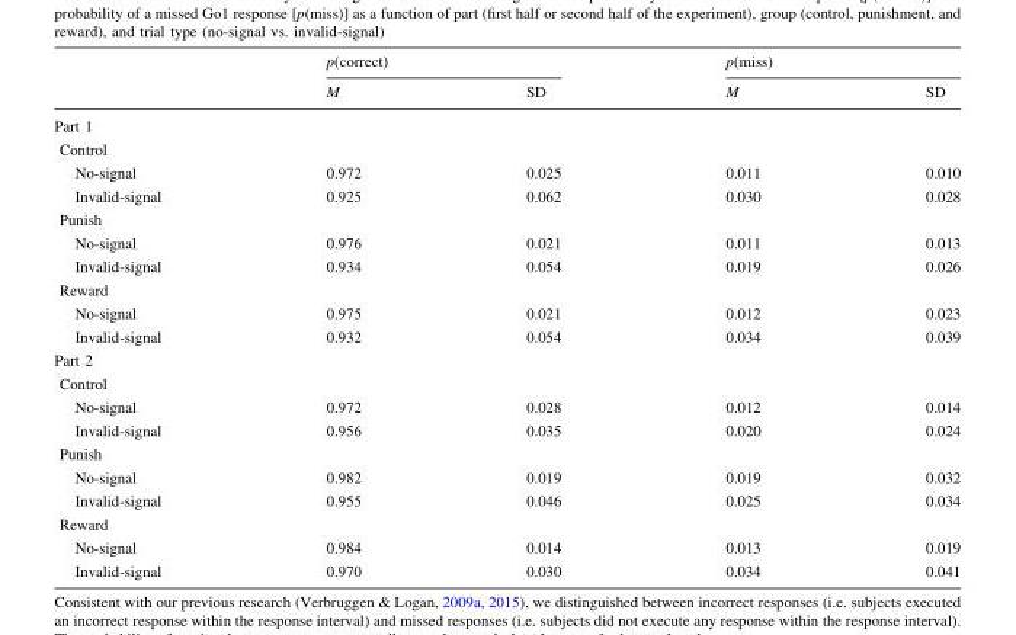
<table><thead><tr><td rowspan="2"></td><td colspan="2">p(correct)</td><td colspan="2">p(miss)</td></tr><tr><td>M</td><td>SD</td><td>M</td><td>SD</td></tr></thead><tbody><tr><td colspan="5">Part 1</td></tr><tr><td colspan="5">Control</td></tr><tr><td>No-signal</td><td>0.972</td><td>0.025</td><td>0.011</td><td>0.010</td></tr><tr><td>Invalid-signal</td><td>0.925</td><td>0.062</td><td>0.030</td><td>0.028</td></tr><tr><td colspan="5">Punish</td></tr><tr><td>No-signal</td><td>0.976</td><td>0.021</td><td>0.011</td><td>0.013</td></tr><tr><td>Invalid-signal</td><td>0.934</td><td>0.054</td><td>0.019</td><td>0.026</td></tr><tr><td colspan="5">Reward</td></tr><tr><td>No-signal</td><td>0.975</td><td>0.021</td><td>0.012</td><td>0.023</td></tr><tr><td>Invalid-signal</td><td>0.932</td><td>0.054</td><td>0.034</td><td>0.039</td></tr><tr><td colspan="5">Part 2</td></tr><tr><td colspan="5">Control</td></tr><tr><td>No-signal</td><td>0.972</td><td>0.028</td><td>0.012</td><td>0.014</td></tr><tr><td>Invalid-signal</td><td>0.956</td><td>0.035</td><td>0.020</td><td>0.024</td></tr><tr><td colspan="5">Punish</td></tr><tr><td>No-signal</td><td>0.982</td><td>0.019</td><td>0.019</td><td>0.032</td></tr><tr><td>Invalid-signal</td><td>0.955</td><td>0.046</td><td>0.025</td><td>0.034</td></tr><tr><td colspan="5">Reward</td></tr><tr><td>No-signal</td><td>0.984</td><td>0.014</td><td>0.013</td><td>0.019</td></tr><tr><td>Invalid-signal</td><td>0.970</td><td>0.030</td><td>0.034</td><td>0.041</td></tr></tbody></table>